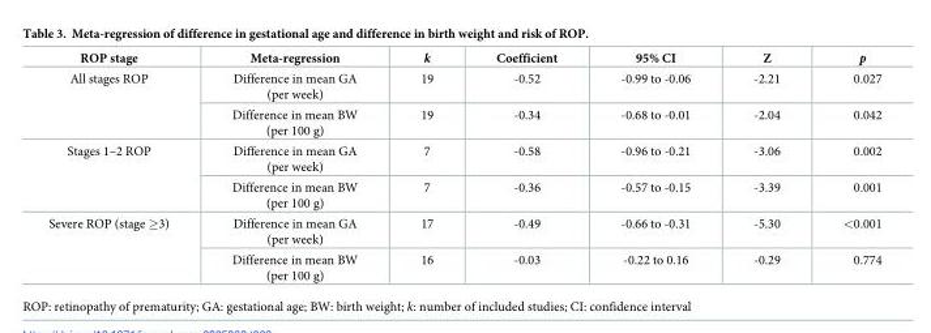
<table><thead><tr><td>ROP stage</td><td>Meta-regression</td><td>k</td><td>Coefficient</td><td>95% CI</td><td>Z</td><td>p</td></tr></thead><tbody><tr><td rowspan="2">All stages ROP</td><td>Difference in mean GA (per week)</td><td>19</td><td>-0.52</td><td>-0.99 to -0.06</td><td>-2.21</td><td>0.027</td></tr><tr><td>Difference in mean BW (per 100 g)</td><td>19</td><td>-0.34</td><td>-0.68 to -0.01</td><td>-2.04</td><td>0.042</td></tr><tr><td rowspan="2">Stages 1–2 ROP</td><td>Difference in mean GA (per week)</td><td>7</td><td>-0.58</td><td>-0.96 to -0.21</td><td>-3.06</td><td>0.002</td></tr><tr><td>Difference in mean BW (per 100 g)</td><td>7</td><td>-0.36</td><td>-0.57 to -0.15</td><td>-3.39</td><td>0.001</td></tr><tr><td rowspan="2">Severe ROP (stage ≥3)</td><td>Difference in mean GA (per week)</td><td>17</td><td>-0.49</td><td>-0.66 to -0.31</td><td>-5.30</td><td>&lt;0.001</td></tr><tr><td>Difference in mean BW (per 100 g)</td><td>16</td><td>-0.03</td><td>-0.22 to 0.16</td><td>-0.29</td><td>0.774</td></tr></tbody></table>